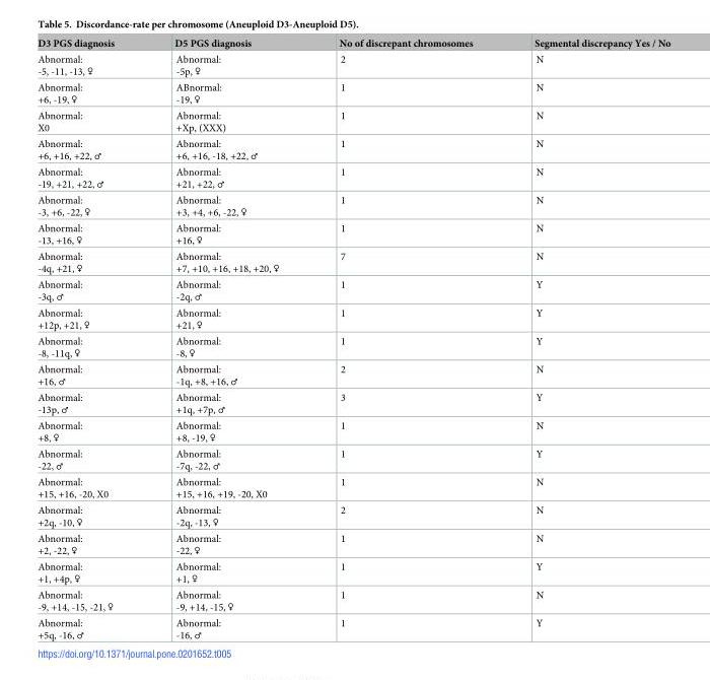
<table><thead><tr><td>D3 PGS diagnosis</td><td>D5 PGS diagnosis</td><td>No of discrepant chromosomes</td><td>Segmental discrepancy Yes / No</td></tr></thead><tbody><tr><td>Abnormal: -5, -11, -13, ♀</td><td>Abnormal: -5p, ♀</td><td>2</td><td>N</td></tr><tr><td>Abnormal: +6, -19, ♀</td><td>ABnormal: -19, ♀</td><td>1</td><td>N</td></tr><tr><td>Abnormal: X0</td><td>Abnormal: +Xp, (XXX)</td><td>1</td><td>N</td></tr><tr><td>Abnormal: +6, +16, +22, ♂</td><td>Abnormal: +6, +16, -18, +22, ♂</td><td>1</td><td>N</td></tr><tr><td>Abnormal: -19, +21, +22, ♂</td><td>Abnormal: +21, +22, ♂</td><td>1</td><td>N</td></tr><tr><td>Abnormal: -3, +6, -22, ♀</td><td>Abnormal: +3, +4, +6, -22, ♀</td><td>1</td><td>N</td></tr><tr><td>Abnormal: -13, +16, ♀</td><td>Abnormal: +16, ♀</td><td>1</td><td>N</td></tr><tr><td>Abnormal: -4q, +21, ♀</td><td>Abnormal: +7, +10, +16, +18, +20, ♀</td><td>7</td><td>N</td></tr><tr><td>Abnormal: -3q, ♂</td><td>Abnormal: -2q, ♂</td><td>1</td><td>Y</td></tr><tr><td>Abnormal: +12p, +21, ♀</td><td>Abnormal: +21, ♀</td><td>1</td><td>Y</td></tr><tr><td>Abnormal: -8, -11q, ♀</td><td>Abnormal: -8, ♀</td><td>1</td><td>Y</td></tr><tr><td>Abnormal: +16, ♂</td><td>Abnormal: -1q, +8, +16, ♂</td><td>2</td><td>N</td></tr><tr><td>Abnormal: -13p, ♂</td><td>Abnormal: +1q, +7p, ♂</td><td>3</td><td>Y</td></tr><tr><td>Abnormal: +8, ♀</td><td>Abnormal: +8, -19, ♀</td><td>1</td><td>N</td></tr><tr><td>Abnormal: -22, ♂</td><td>Abnormal: -7q, -22, ♂</td><td>1</td><td>Y</td></tr><tr><td>Abnormal: +15, +16, -20, X0</td><td>Abnormal: +15, +16, +19, -20, X0</td><td>1</td><td>N</td></tr><tr><td>Abnormal: +2q, -10, ♀</td><td>Abnormal: -2q, -13, ♀</td><td>2</td><td>N</td></tr><tr><td>Abnormal: +2, -22, ♀</td><td>Abnormal: -22, ♀</td><td>1</td><td>N</td></tr><tr><td>Abnormal: +1, +4p, ♀</td><td>Abnormal: +1, ♀</td><td>1</td><td>Y</td></tr><tr><td>Abnormal: -9, +14, -15, -21, ♀</td><td>Abnormal: -9, +14, -15, ♀</td><td>1</td><td>N</td></tr><tr><td>Abnormal: +5q, -16, ♂</td><td>Abnormal: -16, ♂</td><td>1</td><td>Y</td></tr></tbody></table>